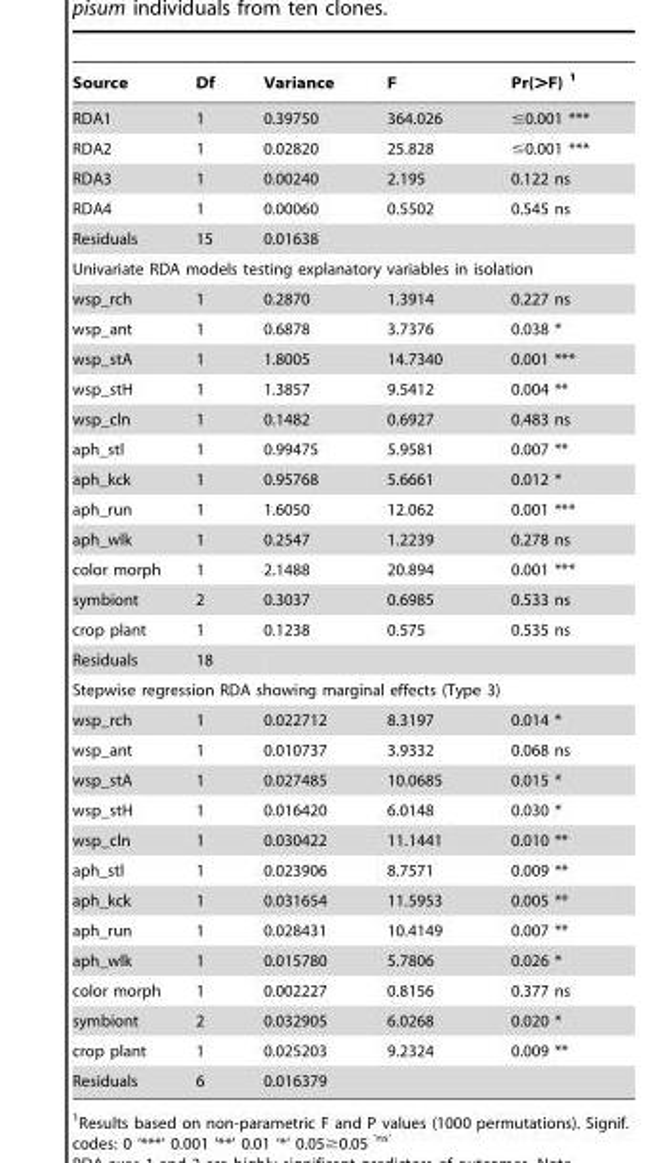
<table><thead><tr><td>Source</td><td>Df</td><td>Variance</td><td>F</td><td>Pr(&gt;F) 1</td></tr></thead><tbody><tr><td>RDA1</td><td>1</td><td>0.39750</td><td>364.026</td><td>≤0.001 ***</td></tr><tr><td>RDA2</td><td>1</td><td>0.02820</td><td>25.828</td><td>≤0.001 ***</td></tr><tr><td>RDA3</td><td>1</td><td>0.00240</td><td>2.195</td><td>0.122 ns</td></tr><tr><td>RDA4</td><td>1</td><td>0.00060</td><td>0.5502</td><td>0.545 ns</td></tr><tr><td>Residuals</td><td>15</td><td>0.01638</td><td></td><td></td></tr><tr><td colspan="5">Univariate RDA models testing explanatory variables in isolation</td></tr><tr><td>wsp_rch</td><td>1</td><td>0.2870</td><td>1.3914</td><td>0.227 ns</td></tr><tr><td>wsp_ant</td><td>1</td><td>0.6878</td><td>3.7376</td><td>0.038 *</td></tr><tr><td>wsp_stA</td><td>1</td><td>1.8005</td><td>14.7340</td><td>0.001 ***</td></tr><tr><td>wsp_stH</td><td>1</td><td>1.3857</td><td>9.5412</td><td>0.004 **</td></tr><tr><td>wsp_cln</td><td>1</td><td>0.1482</td><td>0.6927</td><td>0.483 ns</td></tr><tr><td>aph_stl</td><td>1</td><td>0.99475</td><td>5.9581</td><td>0.007 **</td></tr><tr><td>aph_kck</td><td>1</td><td>0.95768</td><td>5.6661</td><td>0.012 *</td></tr><tr><td>aph_run</td><td>1</td><td>1.6050</td><td>12.062</td><td>0.001 ***</td></tr><tr><td>aph_wlk</td><td>1</td><td>0.2547</td><td>1.2239</td><td>0.278 ns</td></tr><tr><td>color morph</td><td>1</td><td>2.1488</td><td>20.894</td><td>0.001 ***</td></tr><tr><td>symbiont</td><td>2</td><td>0.3037</td><td>0.6985</td><td>0.533 ns</td></tr><tr><td>crop plant</td><td>1</td><td>0.1238</td><td>0.575</td><td>0.535 ns</td></tr><tr><td>Residuals</td><td>18</td><td></td><td></td><td></td></tr><tr><td colspan="5">Stepwise regression RDA showing marginal effects (Type 3)</td></tr><tr><td>wsp_rch</td><td>1</td><td>0.022712</td><td>8.3197</td><td>0.014 *</td></tr><tr><td>wsp_ant</td><td>1</td><td>0.010737</td><td>3.9332</td><td>0.068 ns</td></tr><tr><td>wsp_stA</td><td>1</td><td>0.027485</td><td>10.0685</td><td>0.015 *</td></tr><tr><td>wsp_stH</td><td>1</td><td>0.016420</td><td>6.0148</td><td>0.030 *</td></tr><tr><td>wsp_cln</td><td>1</td><td>0.030422</td><td>11.1441</td><td>0.010 **</td></tr><tr><td>aph_stl</td><td>1</td><td>0.023906</td><td>8.7571</td><td>0.009 **</td></tr><tr><td>aph_kck</td><td>1</td><td>0.031654</td><td>11.5953</td><td>0.005 **</td></tr><tr><td>aph_run</td><td>1</td><td>0.028431</td><td>10.4149</td><td>0.007 **</td></tr><tr><td>aph_wlk</td><td>1</td><td>0.015780</td><td>5.7806</td><td>0.026 *</td></tr><tr><td>color morph</td><td>1</td><td>0.002227</td><td>0.8156</td><td>0.377 ns</td></tr><tr><td>symbiont</td><td>2</td><td>0.032905</td><td>6.0268</td><td>0.020 *</td></tr><tr><td>crop plant</td><td>1</td><td>0.025203</td><td>9.2324</td><td>0.009 **</td></tr><tr><td>Residuals</td><td>6</td><td>0.016379</td><td></td><td></td></tr></tbody></table>